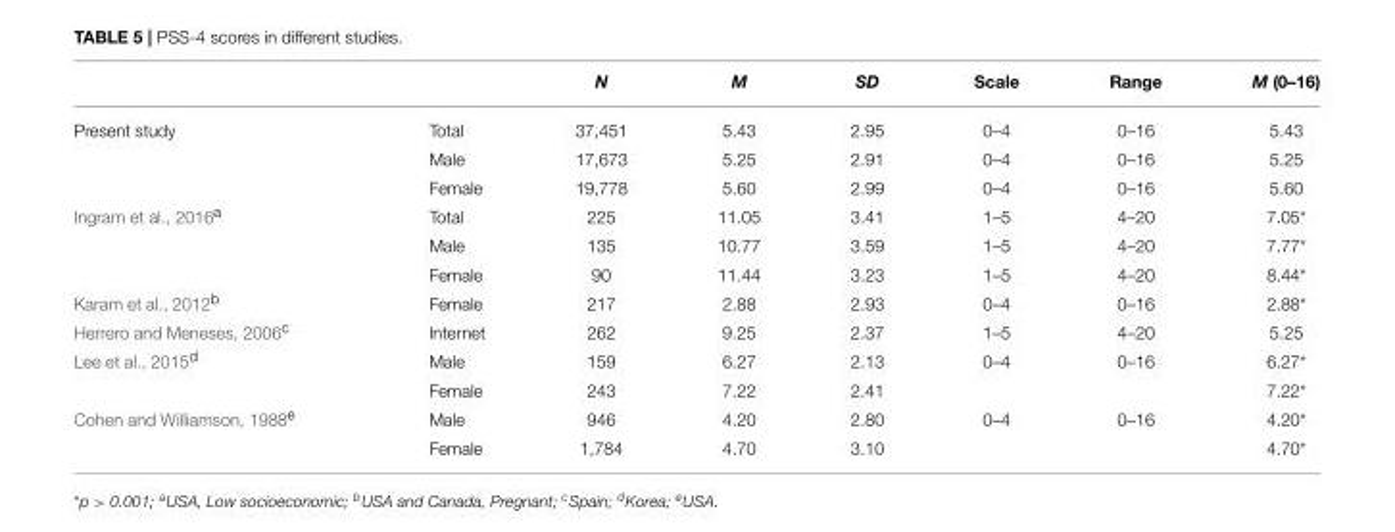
<table><thead><tr><td></td><td></td><td>N</td><td>M</td><td>SD</td><td>Scale</td><td>Range</td><td>M (0–16)</td></tr></thead><tbody><tr><td rowspan="3">Present study</td><td>Total</td><td>37,451</td><td>5.43</td><td>2.95</td><td>0–4</td><td>0–16</td><td>5.43</td></tr><tr><td>Male</td><td>17,673</td><td>5.25</td><td>2.91</td><td>0–4</td><td>0–16</td><td>5.25</td></tr><tr><td>Female</td><td>19,778</td><td>5.60</td><td>2.99</td><td>0–4</td><td>0–16</td><td>5.60</td></tr><tr><td rowspan="3">Ingram et al., 2016<sup>a</sup></td><td>Total</td><td>225</td><td>11.05</td><td>3.41</td><td>1–5</td><td>4–20</td><td>7.05*</td></tr><tr><td>Male</td><td>135</td><td>10.77</td><td>3.59</td><td>1–5</td><td>4–20</td><td>7.77*</td></tr><tr><td>Female</td><td>90</td><td>11.44</td><td>3.23</td><td>1–5</td><td>4–20</td><td>8.44*</td></tr><tr><td>Karam et al., 2012<sup>b</sup></td><td>Female</td><td>217</td><td>2.88</td><td>2.93</td><td>0–4</td><td>0–16</td><td>2.88*</td></tr><tr><td>Herrero and Meneses, 2006<sup>c</sup></td><td>Internet</td><td>262</td><td>9.25</td><td>2.37</td><td>1–5</td><td>4–20</td><td>5.25</td></tr><tr><td rowspan="2">Lee et al., 2015<sup>d</sup></td><td>Male</td><td>159</td><td>6.27</td><td>2.13</td><td>0–4</td><td>0–16</td><td>6.27*</td></tr><tr><td>Female</td><td>243</td><td>7.22</td><td>2.41</td><td></td><td></td><td>7.22*</td></tr><tr><td rowspan="2">Cohen and Williamson, 1988<sup>e</sup></td><td>Male</td><td>946</td><td>4.20</td><td>2.80</td><td>0–4</td><td>0–16</td><td>4.20*</td></tr><tr><td>Female</td><td>1,784</td><td>4.70</td><td>3.10</td><td></td><td></td><td>4.70*</td></tr></tbody></table>